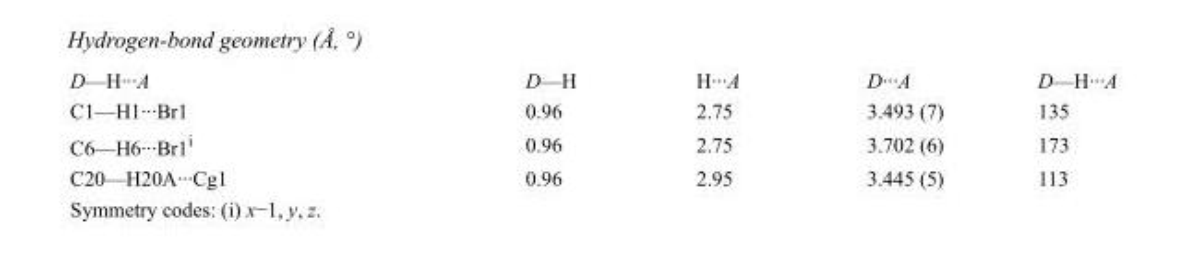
<table><tbody><tr><td>D—H···A</td><td>D—H</td><td>H···A</td><td>D···A</td><td>D—H···A</td></tr><tr><td>C1—H1···Br1</td><td>0.96</td><td>2.75</td><td>3.493 (7)</td><td>135</td></tr><tr><td>C6—H6···Br1<sup>i</sup></td><td>0.96</td><td>2.75</td><td>3.702 (6)</td><td>173</td></tr><tr><td>C20—H20A···Cg1</td><td>0.96</td><td>2.95</td><td>3.445 (5)</td><td>113</td></tr></tbody></table>